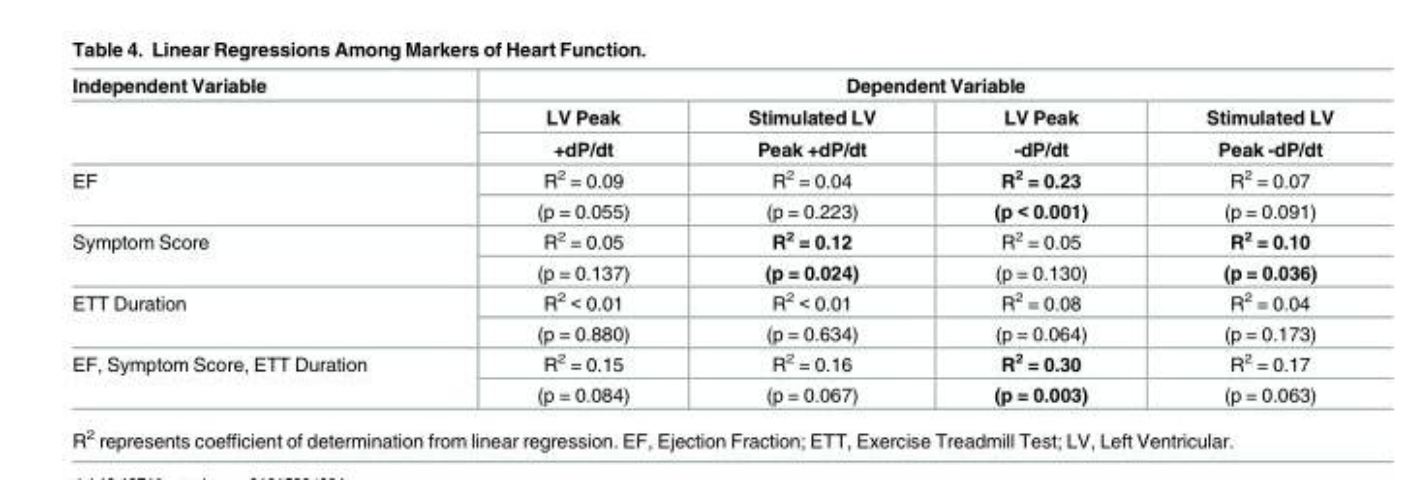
<table><thead><tr><td rowspan="3">Independent Variable</td><td colspan="4">Dependent Variable</td></tr><tr><td rowspan="2">LV Peak +dP/dt</td><td rowspan="2">Stimulated LV Peak +dP/dt</td><td rowspan="2">LV Peak -dP/dt</td><td rowspan="2">Stimulated LV Peak -dP/dt</td></tr><tr></tr></thead><tbody><tr><td rowspan="2">EF</td><td>R<sup>2</sup> = 0.09</td><td>R<sup>2</sup> = 0.04</td><td>R<sup>2</sup> = 0.23</td><td>R<sup>2</sup> = 0.07</td></tr><tr><td>(p = 0.055)</td><td>(p = 0.223)</td><td>(p &lt; 0.001)</td><td>(p = 0.091)</td></tr><tr><td rowspan="2">Symptom Score</td><td>R<sup>2</sup> = 0.05</td><td>R<sup>2</sup> = 0.12</td><td>R<sup>2</sup> = 0.05</td><td>R<sup>2</sup> = 0.10</td></tr><tr><td>(p = 0.137)</td><td>(p = 0.024)</td><td>(p = 0.130)</td><td>(p = 0.036)</td></tr><tr><td rowspan="2">ETT Duration</td><td>R<sup>2</sup> &lt; 0.01</td><td>R<sup>2</sup> &lt; 0.01</td><td>R<sup>2</sup> = 0.08</td><td>R<sup>2</sup> = 0.04</td></tr><tr><td>(p = 0.880)</td><td>(p = 0.634)</td><td>(p = 0.064)</td><td>(p = 0.173)</td></tr><tr><td rowspan="2">EF, Symptom Score, ETT Duration</td><td>R<sup>2</sup> = 0.15</td><td>R<sup>2</sup> = 0.16</td><td>R<sup>2</sup> = 0.30</td><td>R<sup>2</sup> = 0.17</td></tr><tr><td>(p = 0.084)</td><td>(p = 0.067)</td><td>(p = 0.003)</td><td>(p = 0.063)</td></tr></tbody></table>